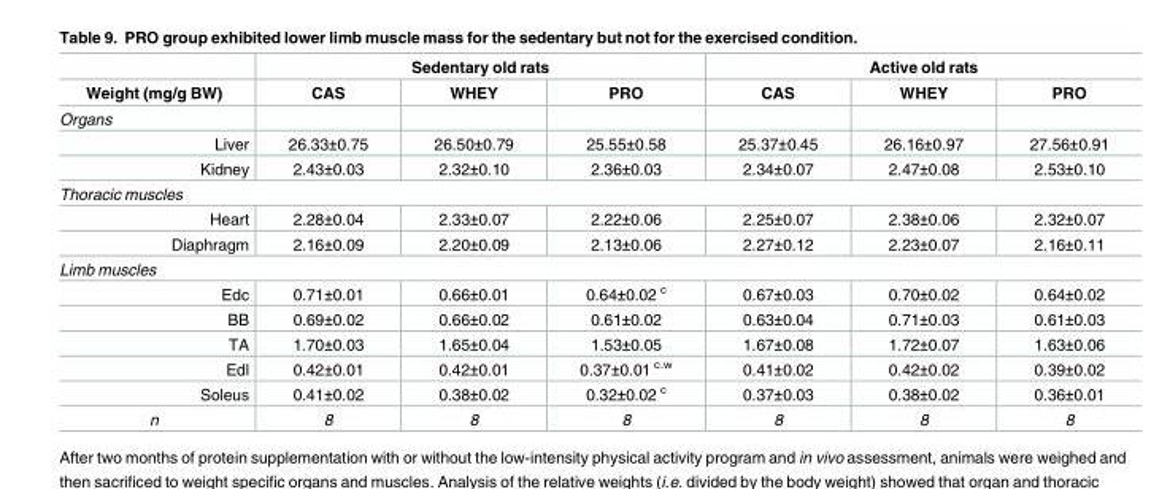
<table><thead><tr><td rowspan="2">Weight (mg/g BW)</td><td colspan="3">Sedentary old rats</td><td colspan="3">Active old rats</td></tr><tr><td>CAS</td><td>WHEY</td><td>PRO</td><td>CAS</td><td>WHEY</td><td>PRO</td></tr></thead><tbody><tr><td colspan="7">Organs</td></tr><tr><td>Liver</td><td>26.33±0.75</td><td>26.50±0.79</td><td>25.55±0.58</td><td>25.37±0.45</td><td>26.16±0.97</td><td>27.56±0.91</td></tr><tr><td>Kidney</td><td>2.43±0.03</td><td>2.32±0.10</td><td>2.36±0.03</td><td>2.34±0.07</td><td>2.47±0.08</td><td>2.53±0.10</td></tr><tr><td colspan="7">Thoracic muscles</td></tr><tr><td>Heart</td><td>2.28±0.04</td><td>2.33±0.07</td><td>2.22±0.06</td><td>2.25±0.07</td><td>2.38±0.06</td><td>2.32±0.07</td></tr><tr><td>Diaphragm</td><td>2.16±0.09</td><td>2.20±0.09</td><td>2.13±0.06</td><td>2.27±0.12</td><td>2.23±0.07</td><td>2.16±0.11</td></tr><tr><td colspan="7">Limb muscles</td></tr><tr><td>Edc</td><td>0.71±0.01</td><td>0.66±0.01</td><td>0.64±0.02 <sup>c</sup></td><td>0.67±0.03</td><td>0.70±0.02</td><td>0.64±0.02</td></tr><tr><td>BB</td><td>0.69±0.02</td><td>0.66±0.02</td><td>0.61±0.02</td><td>0.63±0.04</td><td>0.71±0.03</td><td>0.61±0.03</td></tr><tr><td>TA</td><td>1.70±0.03</td><td>1.65±0.04</td><td>1.53±0.05</td><td>1.67±0.08</td><td>1.72±0.07</td><td>1.63±0.06</td></tr><tr><td>Edl</td><td>0.42±0.01</td><td>0.42±0.01</td><td>0.37±0.01 <sup>c.w</sup></td><td>0.41±0.02</td><td>0.42±0.02</td><td>0.39±0.02</td></tr><tr><td>Soleus</td><td>0.41±0.02</td><td>0.38±0.02</td><td>0.32±0.02 <sup>c</sup></td><td>0.37±0.03</td><td>0.38±0.02</td><td>0.36±0.01</td></tr><tr><td>n</td><td>8</td><td>8</td><td>8</td><td>8</td><td>8</td><td>8</td></tr></tbody></table>